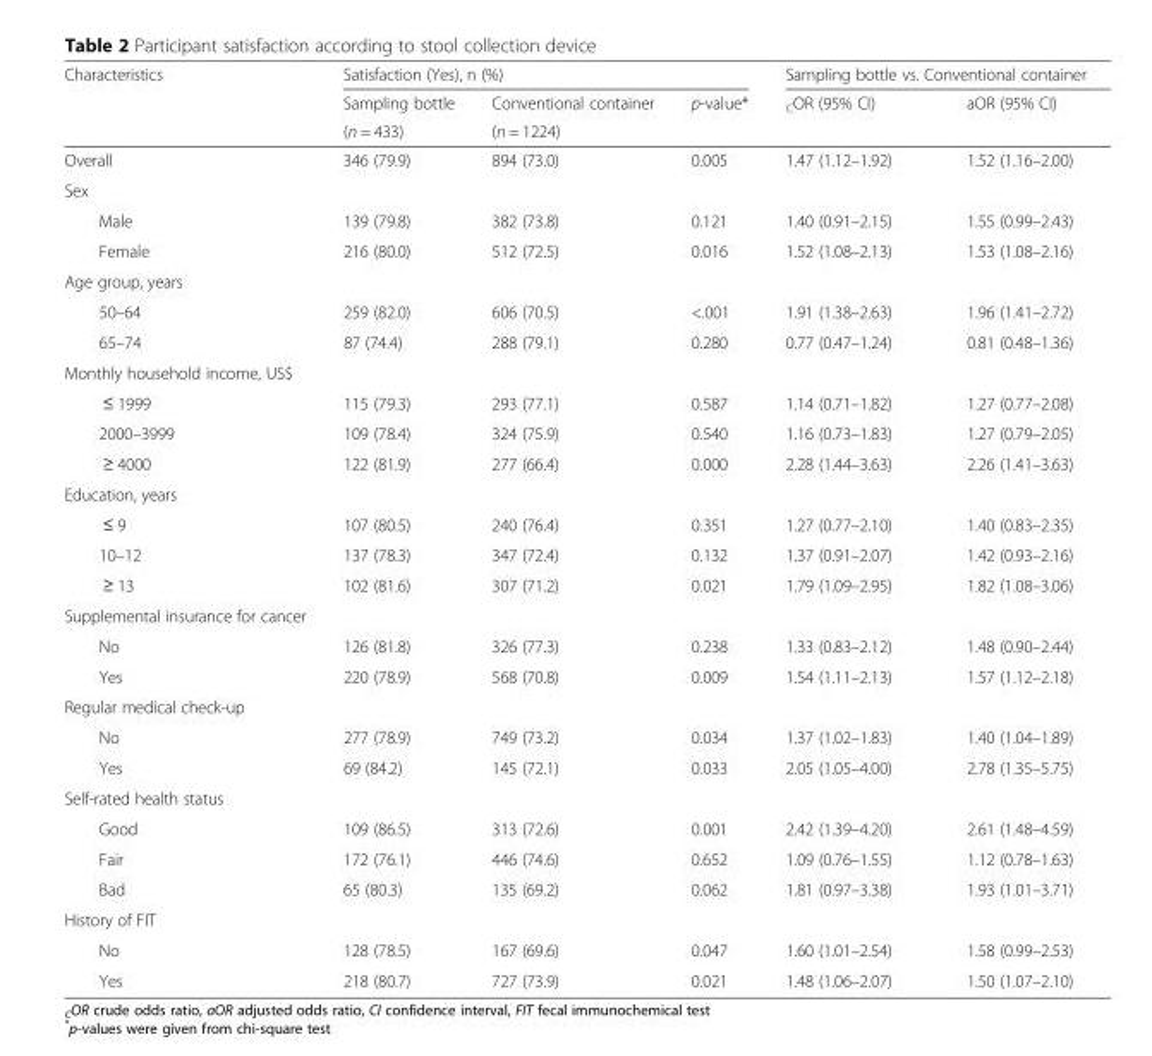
<table><thead><tr><td rowspan="3">Characteristics</td><td colspan="3">Satisfaction (Yes), n (%)</td><td colspan="2">Sampling bottle vs. Conventional container</td></tr><tr><td rowspan="2">Sampling bottle (n = 433)</td><td rowspan="2">Conventional container (n = 1224)</td><td rowspan="2">p-value*</td><td rowspan="2"><sub>C</sub>OR (95% CI)</td><td rowspan="2">aOR (95% CI)</td></tr><tr></tr></thead><tbody><tr><td>Overall</td><td>346 (79.9)</td><td>894 (73.0)</td><td>0.005</td><td>1.47 (1.12–1.92)</td><td>1.52 (1.16–2.00)</td></tr><tr><td colspan="6">Sex</td></tr><tr><td>Male</td><td>139 (79.8)</td><td>382 (73.8)</td><td>0.121</td><td>1.40 (0.91–2.15)</td><td>1.55 (0.99–2.43)</td></tr><tr><td>Female</td><td>216 (80.0)</td><td>512 (72.5)</td><td>0.016</td><td>1.52 (1.08–2.13)</td><td>1.53 (1.08–2.16)</td></tr><tr><td colspan="6">Age group, years</td></tr><tr><td>50–64</td><td>259 (82.0)</td><td>606 (70.5)</td><td>&lt;.001</td><td>1.91 (1.38–2.63)</td><td>1.96 (1.41–2.72)</td></tr><tr><td>65–74</td><td>87 (74.4)</td><td>288 (79.1)</td><td>0.280</td><td>0.77 (0.47–1.24)</td><td>0.81 (0.48–1.36)</td></tr><tr><td colspan="6">Monthly household income, US$</td></tr><tr><td>≤ 1999</td><td>115 (79.3)</td><td>293 (77.1)</td><td>0.587</td><td>1.14 (0.71–1.82)</td><td>1.27 (0.77–2.08)</td></tr><tr><td>2000–3999</td><td>109 (78.4)</td><td>324 (75.9)</td><td>0.540</td><td>1.16 (0.73–1.83)</td><td>1.27 (0.79–2.05)</td></tr><tr><td>≥ 4000</td><td>122 (81.9)</td><td>277 (66.4)</td><td>0.000</td><td>2.28 (1.44–3.63)</td><td>2.26 (1.41–3.63)</td></tr><tr><td colspan="6">Education, years</td></tr><tr><td>≤ 9</td><td>107 (80.5)</td><td>240 (76.4)</td><td>0.351</td><td>1.27 (0.77–2.10)</td><td>1.40 (0.83–2.35)</td></tr><tr><td>10–12</td><td>137 (78.3)</td><td>347 (72.4)</td><td>0.132</td><td>1.37 (0.91–2.07)</td><td>1.42 (0.93–2.16)</td></tr><tr><td>≥ 13</td><td>102 (81.6)</td><td>307 (71.2)</td><td>0.021</td><td>1.79 (1.09–2.95)</td><td>1.82 (1.08–3.06)</td></tr><tr><td colspan="6">Supplemental insurance for cancer</td></tr><tr><td>No</td><td>126 (81.8)</td><td>326 (77.3)</td><td>0.238</td><td>1.33 (0.83–2.12)</td><td>1.48 (0.90–2.44)</td></tr><tr><td>Yes</td><td>220 (78.9)</td><td>568 (70.8)</td><td>0.009</td><td>1.54 (1.11–2.13)</td><td>1.57 (1.12–2.18)</td></tr><tr><td colspan="6">Regular medical check-up</td></tr><tr><td>No</td><td>277 (78.9)</td><td>749 (73.2)</td><td>0.034</td><td>1.37 (1.02–1.83)</td><td>1.40 (1.04–1.89)</td></tr><tr><td>Yes</td><td>69 (84.2)</td><td>145 (72.1)</td><td>0.033</td><td>2.05 (1.05–4.00)</td><td>2.78 (1.35–5.75)</td></tr><tr><td colspan="6">Self-rated health status</td></tr><tr><td>Good</td><td>109 (86.5)</td><td>313 (72.6)</td><td>0.001</td><td>2.42 (1.39–4.20)</td><td>2.61 (1.48–4.59)</td></tr><tr><td>Fair</td><td>172 (76.1)</td><td>446 (74.6)</td><td>0.652</td><td>1.09 (0.76–1.55)</td><td>1.12 (0.78–1.63)</td></tr><tr><td>Bad</td><td>65 (80.3)</td><td>135 (69.2)</td><td>0.062</td><td>1.81 (0.97–3.38)</td><td>1.93 (1.01–3.71)</td></tr><tr><td colspan="6">History of FIT</td></tr><tr><td>No</td><td>128 (78.5)</td><td>167 (69.6)</td><td>0.047</td><td>1.60 (1.01–2.54)</td><td>1.58 (0.99–2.53)</td></tr><tr><td>Yes</td><td>218 (80.7)</td><td>727 (73.9)</td><td>0.021</td><td>1.48 (1.06–2.07)</td><td>1.50 (1.07–2.10)</td></tr></tbody></table>